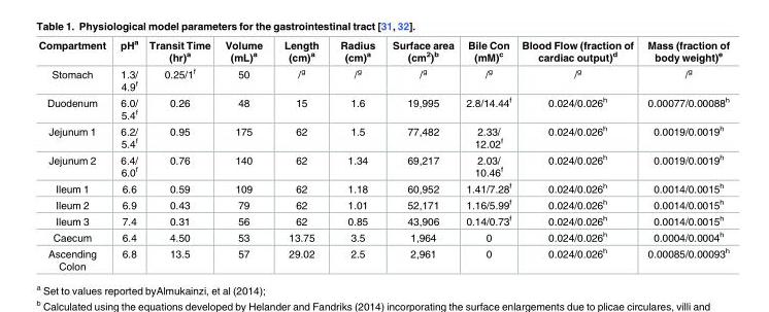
<table><thead><tr><td>Compartment</td><td>pH<sup>a</sup></td><td>Transit Time (hr)<sup>a</sup></td><td>Volume (mL)<sup>a</sup></td><td>Length (cm)<sup>a</sup></td><td>Radius (cm)<sup>a</sup></td><td>Surface area (cm<sup>2</sup>)<sup>b</sup></td><td>Bile Con (mM)<sup>c</sup></td><td>Blood Flow (fraction of cardiac output)<sup>d</sup></td><td>Mass (fraction of body weight)<sup>e</sup></td></tr></thead><tbody><tr><td>Stomach</td><td>1.3/ 4.9<sup>f</sup></td><td>0.25/1<sup>f</sup></td><td>50</td><td>/<sup>g</sup></td><td>/<sup>g</sup></td><td>/<sup>g</sup></td><td>/<sup>g</sup></td><td>/<sup>g</sup></td><td>/<sup>g</sup></td></tr><tr><td>Duodenum</td><td>6.0/ 5.4<sup>f</sup></td><td>0.26</td><td>48</td><td>15</td><td>1.6</td><td>19,995</td><td>2.8/14.44<sup>f</sup></td><td>0.024/0.026<sup>h</sup></td><td>0.00077/0.00088<sup>h</sup></td></tr><tr><td>Jejunum 1</td><td>6.2/ 5.4<sup>f</sup></td><td>0.95</td><td>175</td><td>62</td><td>1.5</td><td>77,482</td><td>2.33/ 12.02<sup>f</sup></td><td>0.024/0.026<sup>h</sup></td><td>0.0019/0.0019<sup>h</sup></td></tr><tr><td>Jejunum 2</td><td>6.4/ 6.0<sup>f</sup></td><td>0.76</td><td>140</td><td>62</td><td>1.34</td><td>69,217</td><td>2.03/ 10.46<sup>f</sup></td><td>0.024/0.026<sup>h</sup></td><td>0.0019/0.0019<sup>h</sup></td></tr><tr><td>Ileum 1</td><td>6.6</td><td>0.59</td><td>109</td><td>62</td><td>1.18</td><td>60,952</td><td>1.41/7.28<sup>f</sup></td><td>0.024/0.026<sup>h</sup></td><td>0.0014/0.0015<sup>h</sup></td></tr><tr><td>Ileum 2</td><td>6.9</td><td>0.43</td><td>79</td><td>62</td><td>1.01</td><td>52,171</td><td>1.16/5.99<sup>f</sup></td><td>0.024/0.026<sup>h</sup></td><td>0.0014/0.0015<sup>h</sup></td></tr><tr><td>Ileum 3</td><td>7.4</td><td>0.31</td><td>56</td><td>62</td><td>0.85</td><td>43,906</td><td>0.14/0.73<sup>f</sup></td><td>0.024/0.026<sup>h</sup></td><td>0.0014/0.0015<sup>h</sup></td></tr><tr><td>Caecum</td><td>6.4</td><td>4.50</td><td>53</td><td>13.75</td><td>3.5</td><td>1,964</td><td>0</td><td>0.024/0.026<sup>h</sup></td><td>0.0004/0.0004<sup>h</sup></td></tr><tr><td>Ascending Colon</td><td>6.8</td><td>13.5</td><td>57</td><td>29.02</td><td>2.5</td><td>2,961</td><td>0</td><td>0.024/0.026<sup>h</sup></td><td>0.00085/0.00093<sup>h</sup></td></tr></tbody></table>